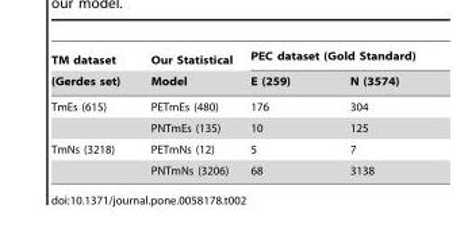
<table><thead><tr><td rowspan="2">TM dataset (Gerdes set)</td><td rowspan="2">Our Statistical Model</td><td colspan="2">PEC dataset (Gold Standard)</td></tr><tr><td>E (259)</td><td>N (3574)</td></tr></thead><tbody><tr><td rowspan="2">TmEs (615)</td><td>PETmEs (480)</td><td>176</td><td>304</td></tr><tr><td>PNTmEs (135)</td><td>10</td><td>125</td></tr><tr><td rowspan="2">TmNs (3218)</td><td>PETmNs (12)</td><td>5</td><td>7</td></tr><tr><td>PNTmNs (3206)</td><td>68</td><td>3138</td></tr></tbody></table>